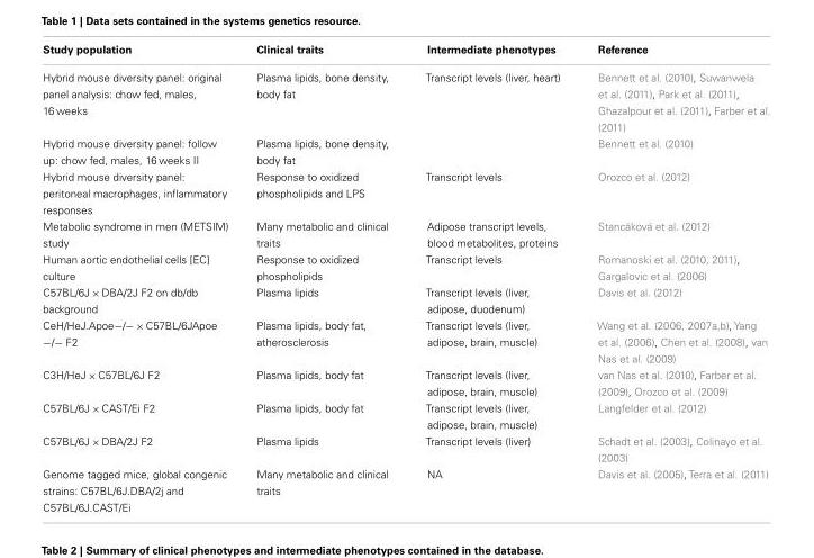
<table><thead><tr><td>Study population</td><td>Clinical traits</td><td>Intermediate phenotypes</td><td>Reference</td></tr></thead><tbody><tr><td>Hybrid mouse diversity panel: original panel analysis: chow fed, males, 16 weeks</td><td>Plasma lipids, bone density, body fat</td><td>Transcript levels (liver, heart)</td><td>Bennett et al. (2010), Suwanwela et al. (2011), Park et al. (2011), Ghazalpour et al. (2011), Farber et al. (2011)</td></tr><tr><td>Hybrid mouse diversity panel: follow up: chow fed, males, 16 weeks II</td><td>Plasma lipids, bone density, body fat</td><td></td><td>Bennett et al. (2010)</td></tr><tr><td>Hybrid mouse diversity panel: peritoneal macrophages, inflammatory responses</td><td>Response to oxidized phospholipids and LPS</td><td>Transcript levels</td><td>Orozco et al. (2012)</td></tr><tr><td>Metabolic syndrome in men (METSIM) study</td><td>Many metabolic and clinical traits</td><td>Adipose transcript levels, blood metabolites, proteins</td><td>Stancáková et al. (2012)</td></tr><tr><td>Human aortic endothelial cells [EC] culture</td><td>Response to oxidized phospholipids</td><td>Transcript levels</td><td>Romanoski et al. (2010, 2011), Gargalovic et al. (2006)</td></tr><tr><td>C57BL/6J × DBA/2J F2 on db/db background</td><td>Plasma lipids</td><td>Transcript levels (liver, adipose, duodenum)</td><td>Davis et al. (2012)</td></tr><tr><td>CeH/HeJ.Apoe−/− × C57BL/6JApoe −/− F2</td><td>Plasma lipids, body fat, atherosclerosis</td><td>Transcript levels (liver, adipose, brain, muscle)</td><td>Wang et al. (2006, 2007a,b), Yang et al. (2006), Chen et al. (2008), van Nas et al. (2009)</td></tr><tr><td>C3H/HeJ × C57BL/6J F2</td><td>Plasma lipids, body fat</td><td>Transcript levels (liver, adipose, brain, muscle)</td><td>van Nas et al. (2010), Farber et al. (2009), Orozco et al. (2009)</td></tr><tr><td>C57BL/6J × CAST/Ei F2</td><td>Plasma lipids, body fat</td><td>Transcript levels (liver, adipose, brain, muscle)</td><td>Langfelder et al. (2012)</td></tr><tr><td>C57BL/6J × DBA/2J F2</td><td>Plasma lipids</td><td>Transcript levels (liver)</td><td>Schadt et al. (2003), Colinayo et al. (2003)</td></tr><tr><td>Genome tagged mice, global congenic strains: C57BL/6J.DBA/2j and C57BL/6J.CAST/Ei</td><td>Many metabolic and clinical traits</td><td>NA</td><td>Davis et al. (2005), Terra et al. (2011)</td></tr></tbody></table>